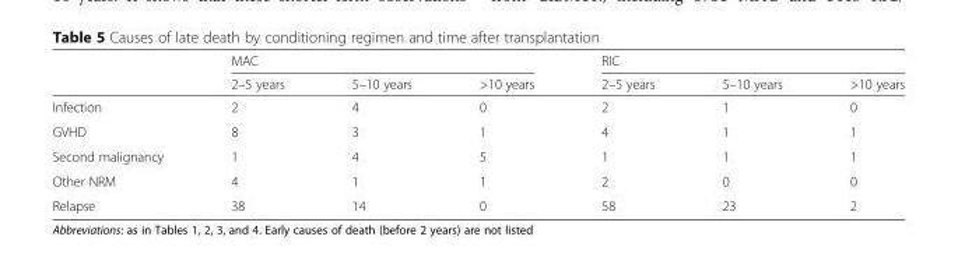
<table><thead><tr><td rowspan="2"></td><td colspan="3">MAC</td><td colspan="3">RIC</td></tr><tr><td>2–5 years</td><td>5–10 years</td><td>&gt;10 years</td><td>2–5 years</td><td>5–10 years</td><td>&gt;10 years</td></tr></thead><tbody><tr><td>Infection</td><td>2</td><td>4</td><td>0</td><td>2</td><td>1</td><td>0</td></tr><tr><td>GVHD</td><td>8</td><td>3</td><td>1</td><td>4</td><td>1</td><td>1</td></tr><tr><td>Second malignancy</td><td>1</td><td>4</td><td>5</td><td>1</td><td>1</td><td>1</td></tr><tr><td>Other NRM</td><td>4</td><td>1</td><td>1</td><td>2</td><td>0</td><td>0</td></tr><tr><td>Relapse</td><td>38</td><td>14</td><td>0</td><td>58</td><td>23</td><td>2</td></tr></tbody></table>